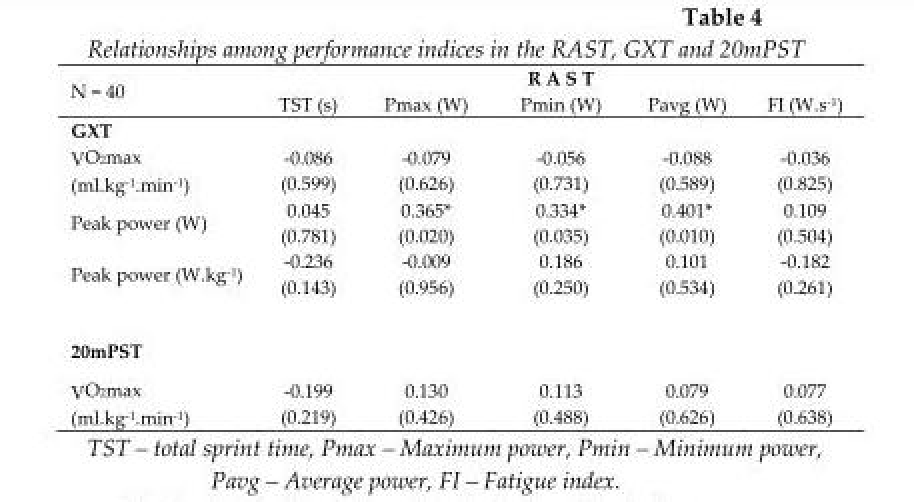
<table><thead><tr><td rowspan="2">N = 40</td><td colspan="5">R A S T</td></tr><tr><td>TST (s)</td><td>Pmax (W)</td><td>Pmin (W)</td><td>Pavg (W)</td><td>FI (W.s<sup>-1</sup>)</td></tr></thead><tbody><tr><td colspan="6">GXT</td></tr><tr><td>VO<sub>2</sub>max (ml.kg<sup>-1</sup>.min<sup>-1</sup>)</td><td>-0.086 (0.599)</td><td>-0.079 (0.626)</td><td>-0.056 (0.731)</td><td>-0.088 (0.589)</td><td>-0.036 (0.825)</td></tr><tr><td>Peak power (W)</td><td>0.045 (0.781)</td><td>0.365* (0.020)</td><td>0.334* (0.035)</td><td>0.401* (0.010)</td><td>0.109 (0.504)</td></tr><tr><td>Peak power (W.kg<sup>-1</sup>)</td><td>-0.236 (0.143)</td><td>-0.009 (0.956)</td><td>0.186 (0.250)</td><td>0.101 (0.534)</td><td>-0.182 (0.261)</td></tr><tr><td colspan="6">20mPST</td></tr><tr><td>VO<sub>2</sub>max (ml.kg<sup>-1</sup>.min<sup>-1</sup>)</td><td>-0.199 (0.219)</td><td>0.130 (0.426)</td><td>0.113 (0.488)</td><td>0.079 (0.626)</td><td>0.077 (0.638)</td></tr></tbody></table>